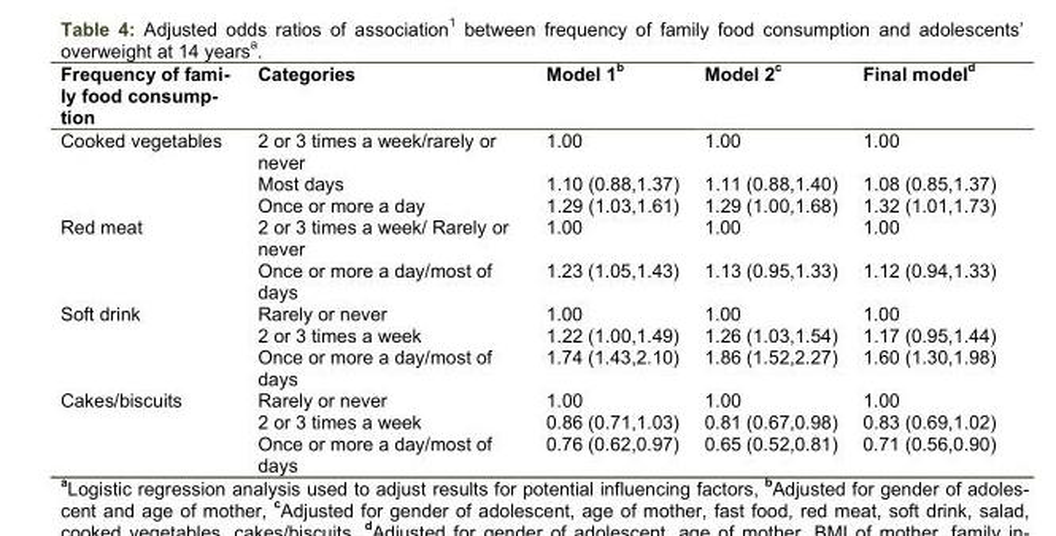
<table><thead><tr><td>Frequency of fami- ly food consump- tion</td><td>Categories</td><td>Model 1<sup>b</sup></td><td>Model 2<sup>c</sup></td><td>Final model<sup>d</sup></td></tr></thead><tbody><tr><td rowspan="3">Cooked vegetables</td><td>2 or 3 times a week/rarely or never</td><td>1.00</td><td>1.00</td><td>1.00</td></tr><tr><td>Most days</td><td>1.10 (0.88,1.37)</td><td>1.11 (0.88,1.40)</td><td>1.08 (0.85,1.37)</td></tr><tr><td>Once or more a day</td><td>1.29 (1.03,1.61)</td><td>1.29 (1.00,1.68)</td><td>1.32 (1.01,1.73)</td></tr><tr><td rowspan="2">Red meat</td><td>2 or 3 times a week/ Rarely or never</td><td>1.00</td><td>1.00</td><td>1.00</td></tr><tr><td>Once or more a day/most of days</td><td>1.23 (1.05,1.43)</td><td>1.13 (0.95,1.33)</td><td>1.12 (0.94,1.33)</td></tr><tr><td rowspan="3">Soft drink</td><td>Rarely or never</td><td>1.00</td><td>1.00</td><td>1.00</td></tr><tr><td>2 or 3 times a week</td><td>1.22 (1.00,1.49)</td><td>1.26 (1.03,1.54)</td><td>1.17 (0.95,1.44)</td></tr><tr><td>Once or more a day/most of days</td><td>1.74 (1.43,2.10)</td><td>1.86 (1.52,2.27)</td><td>1.60 (1.30,1.98)</td></tr><tr><td rowspan="3">Cakes/biscuits</td><td>Rarely or never</td><td>1.00</td><td>1.00</td><td>1.00</td></tr><tr><td>2 or 3 times a week</td><td>0.86 (0.71,1.03)</td><td>0.81 (0.67,0.98)</td><td>0.83 (0.69,1.02)</td></tr><tr><td>Once or more a day/most of days</td><td>0.76 (0.62,0.97)</td><td>0.65 (0.52,0.81)</td><td>0.71 (0.56,0.90)</td></tr></tbody></table>